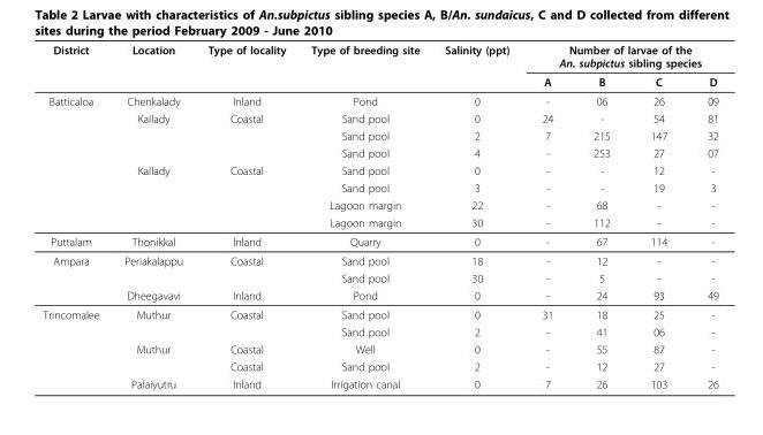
<table><thead><tr><td rowspan="2">District</td><td rowspan="2">Location</td><td rowspan="2">Type of locality</td><td rowspan="2">Type of breeding site</td><td rowspan="2">Salinity (ppt)</td><td colspan="4">Number of larvae of the An. subpictus sibling species</td></tr><tr><td>A</td><td>B</td><td>C</td><td>D</td></tr></thead><tbody><tr><td rowspan="8">Batticaloa</td><td>Chenkalady</td><td>Inland</td><td>Pond</td><td>0</td><td>-</td><td>06</td><td>26</td><td>09</td></tr><tr><td>Kallady</td><td>Coastal</td><td>Sand pool</td><td>0</td><td>24</td><td>-</td><td>54</td><td>81</td></tr><tr><td></td><td></td><td>Sand pool</td><td>2</td><td>7</td><td>215</td><td>147</td><td>32</td></tr><tr><td></td><td></td><td>Sand pool</td><td>4</td><td>-</td><td>253</td><td>27</td><td>07</td></tr><tr><td>Kallady</td><td>Coastal</td><td>Sand pool</td><td>0</td><td>-</td><td>-</td><td>12</td><td>-</td></tr><tr><td></td><td></td><td>Sand pool</td><td>3</td><td>-</td><td>-</td><td>19</td><td>3</td></tr><tr><td></td><td></td><td>Lagoon margin</td><td>22</td><td>-</td><td>68</td><td>-</td><td>-</td></tr><tr><td></td><td></td><td>Lagoon margin</td><td>30</td><td>-</td><td>112</td><td>-</td><td>-</td></tr><tr><td>Puttalam</td><td>Thonikkal</td><td>Inland</td><td>Quarry</td><td>0</td><td>-</td><td>67</td><td>114</td><td>-</td></tr><tr><td rowspan="3">Ampara</td><td>Periakalappu</td><td>Coastal</td><td>Sand pool</td><td>18</td><td>-</td><td>12</td><td>-</td><td>-</td></tr><tr><td></td><td></td><td>Sand pool</td><td>30</td><td>-</td><td>5</td><td>-</td><td>-</td></tr><tr><td>Dheegavavi</td><td>Inland</td><td>Pond</td><td>0</td><td>-</td><td>24</td><td>93</td><td>49</td></tr><tr><td rowspan="5">Trincomalee</td><td>Muthur</td><td>Coastal</td><td>Sand pool</td><td>0</td><td>31</td><td>18</td><td>25</td><td>-</td></tr><tr><td></td><td></td><td>Sand pool</td><td>2</td><td>-</td><td>41</td><td>06</td><td>-</td></tr><tr><td>Muthur</td><td>Coastal</td><td>Well</td><td>0</td><td>-</td><td>55</td><td>87</td><td>-</td></tr><tr><td></td><td>Coastal</td><td>Sand pool</td><td>2</td><td>-</td><td>12</td><td>27</td><td>-</td></tr><tr><td>Palaiyutru</td><td>Inland</td><td>Irrigation canal</td><td>0</td><td>7</td><td>26</td><td>103</td><td>26</td></tr></tbody></table>